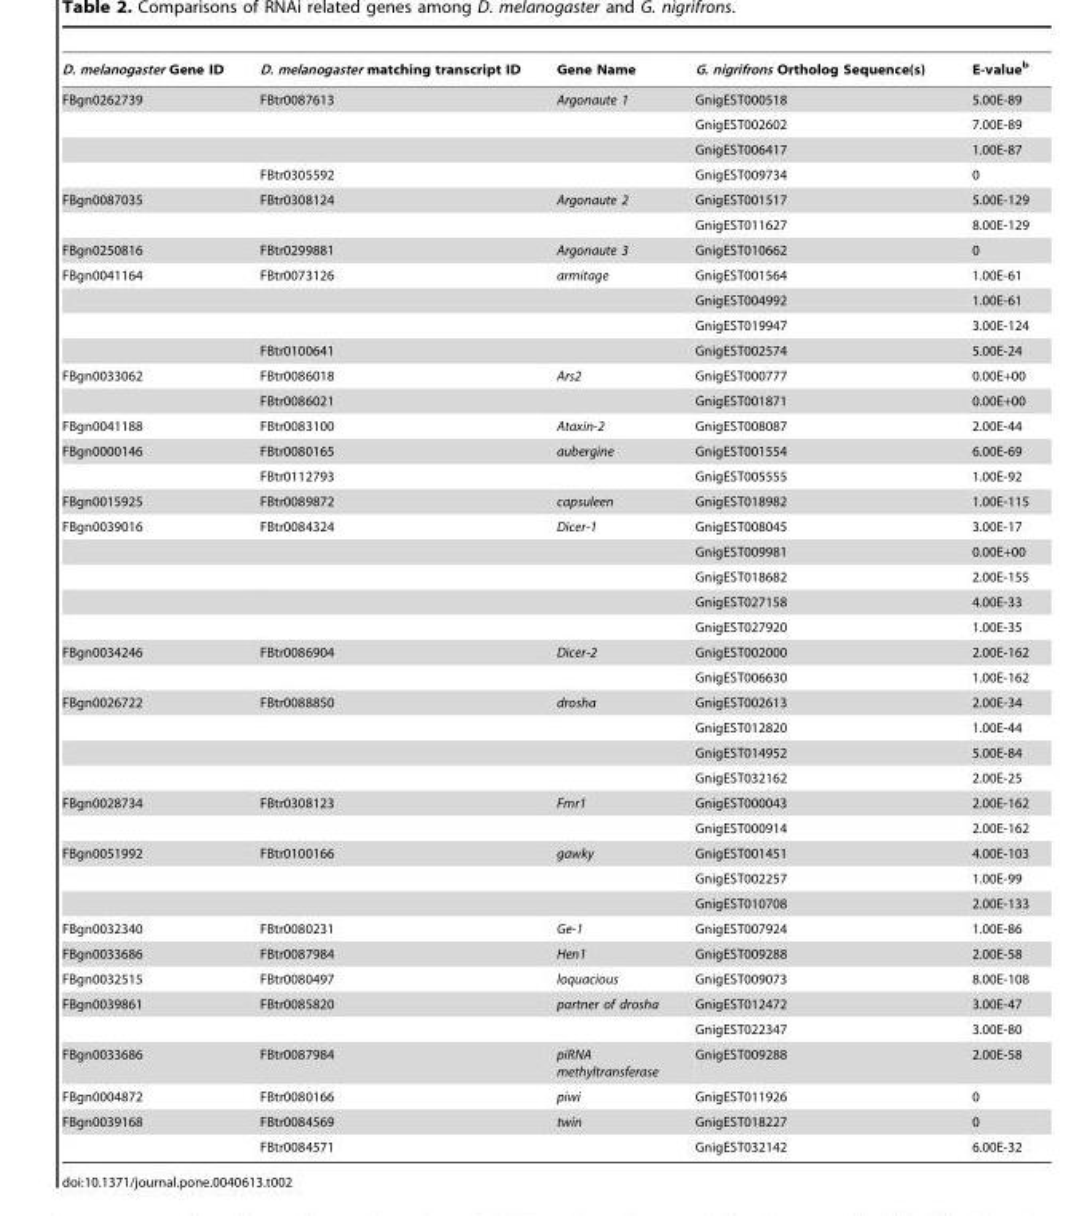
<table><thead><tr><td>D. melanogaster Gene ID</td><td>D. melanogaster matching transcript ID</td><td>Gene Name</td><td>G. nigrifrons Ortholog Sequence(s)</td><td>E-value<sup>b</sup></td></tr></thead><tbody><tr><td rowspan="4">FBgn0262739</td><td>FBtr0087613</td><td>Argonaute 1</td><td>GnigEST000518</td><td>5.00E-89</td></tr><tr><td></td><td></td><td>GnigEST002602</td><td>7.00E-89</td></tr><tr><td></td><td></td><td>GnigEST006417</td><td>1.00E-87</td></tr><tr><td>FBtr0305592</td><td></td><td>GnigEST009734</td><td>0</td></tr><tr><td rowspan="2">FBgn0087035</td><td>FBtr0308124</td><td>Argonaute 2</td><td>GnigEST001517</td><td>5.00E-129</td></tr><tr><td></td><td></td><td>GnigEST011627</td><td>8.00E-129</td></tr><tr><td>FBgn0250816</td><td>FBtr0299881</td><td>Argonaute 3</td><td>GnigEST010662</td><td>0</td></tr><tr><td rowspan="4">FBgn0041164</td><td>FBtr0073126</td><td>armitage</td><td>GnigEST001564</td><td>1.00E-61</td></tr><tr><td></td><td></td><td>GnigEST004992</td><td>1.00E-61</td></tr><tr><td></td><td></td><td>GnigEST019947</td><td>3.00E-124</td></tr><tr><td>FBtr0100641</td><td></td><td>GnigEST002574</td><td>5.00E-24</td></tr><tr><td rowspan="2">FBgn0033062</td><td>FBtr0086018</td><td>Ars2</td><td>GnigEST000777</td><td>0.00E+00</td></tr><tr><td>FBtr0086021</td><td></td><td>GnigEST001871</td><td>0.00E+00</td></tr><tr><td>FBgn0041188</td><td>FBtr0083100</td><td>Ataxin-2</td><td>GnigEST008087</td><td>2.00E-44</td></tr><tr><td rowspan="2">FBgn0000146</td><td>FBtr0080165</td><td>aubergine</td><td>GnigEST001554</td><td>6.00E-69</td></tr><tr><td>FBtr0112793</td><td></td><td>GnigEST005555</td><td>1.00E-92</td></tr><tr><td>FBgn0015925</td><td>FBtr0089872</td><td>capsuleen</td><td>GnigEST018982</td><td>1.00E-115</td></tr><tr><td rowspan="5">FBgn0039016</td><td>FBtr0084324</td><td>Dicer-1</td><td>GnigEST008045</td><td>3.00E-17</td></tr><tr><td></td><td></td><td>GnigEST009981</td><td>0.00E+00</td></tr><tr><td></td><td></td><td>GnigEST018682</td><td>2.00E-155</td></tr><tr><td></td><td></td><td>GnigEST027158</td><td>4.00E-33</td></tr><tr><td></td><td></td><td>GnigEST027920</td><td>1.00E-35</td></tr><tr><td rowspan="2">FBgn0034246</td><td>FBtr0086904</td><td>Dicer-2</td><td>GnigEST002000</td><td>2.00E-162</td></tr><tr><td></td><td></td><td>GnigEST006630</td><td>1.00E-162</td></tr><tr><td rowspan="4">FBgn0026722</td><td>FBtr0088850</td><td>drosha</td><td>GnigEST002613</td><td>2.00E-34</td></tr><tr><td></td><td></td><td>GnigEST012820</td><td>1.00E-44</td></tr><tr><td></td><td></td><td>GnigEST014952</td><td>5.00E-84</td></tr><tr><td></td><td></td><td>GnigEST032162</td><td>2.00E-25</td></tr><tr><td rowspan="2">FBgn0028734</td><td>FBtr0308123</td><td>Fmr1</td><td>GnigEST000043</td><td>2.00E-162</td></tr><tr><td></td><td></td><td>GnigEST000914</td><td>2.00E-162</td></tr><tr><td rowspan="3">FBgn0051992</td><td>FBtr0100166</td><td>gawky</td><td>GnigEST001451</td><td>4.00E-103</td></tr><tr><td></td><td></td><td>GnigEST002257</td><td>1.00E-99</td></tr><tr><td></td><td></td><td>GnigEST010708</td><td>2.00E-133</td></tr><tr><td>FBgn0032340</td><td>FBtr0080231</td><td>Ge-1</td><td>GnigEST007924</td><td>1.00E-86</td></tr><tr><td>FBgn0033686</td><td>FBtr0087984</td><td>Hen1</td><td>GnigEST009288</td><td>2.00E-58</td></tr><tr><td>FBgn0032515</td><td>FBtr0080497</td><td>loquacious</td><td>GnigEST009073</td><td>8.00E-108</td></tr><tr><td rowspan="2">FBgn0039861</td><td>FBtr0085820</td><td>partner of drosha</td><td>GnigEST012472</td><td>3.00E-47</td></tr><tr><td></td><td></td><td>GnigEST022347</td><td>3.00E-80</td></tr><tr><td>FBgn0033686</td><td>FBtr0087984</td><td>piRNA methyltransferase</td><td>GnigEST009288</td><td>2.00E-58</td></tr><tr><td>FBgn0004872</td><td>FBtr0080166</td><td>piwi</td><td>GnigEST011926</td><td>0</td></tr><tr><td rowspan="2">FBgn0039168</td><td>FBtr0084569</td><td>twin</td><td>GnigEST018227</td><td>0</td></tr><tr><td>FBtr0084571</td><td></td><td>GnigEST032142</td><td>6.00E-32</td></tr></tbody></table>